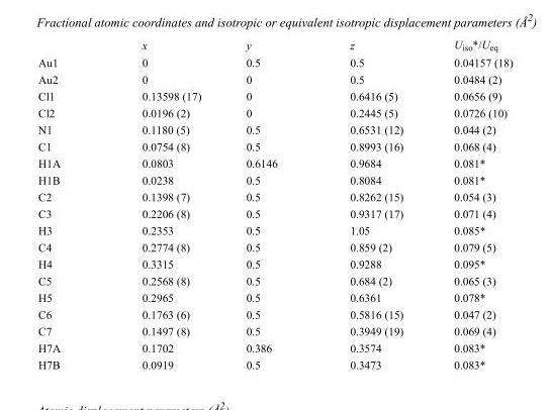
<table><thead><tr><td></td><td>x</td><td>y</td><td>z</td><td>U<sub>iso</sub>*/U<sub>eq</sub></td></tr></thead><tbody><tr><td>Au1</td><td>0</td><td>0.5</td><td>0.5</td><td>0.04157 (18)</td></tr><tr><td>Au2</td><td>0</td><td>0</td><td>0.5</td><td>0.0484 (2)</td></tr><tr><td>Cl1</td><td>0.13598 (17)</td><td>0</td><td>0.6416 (5)</td><td>0.0656 (9)</td></tr><tr><td>Cl2</td><td>0.0196 (2)</td><td>0</td><td>0.2445 (5)</td><td>0.0726 (10)</td></tr><tr><td>N1</td><td>0.1180 (5)</td><td>0.5</td><td>0.6531 (12)</td><td>0.044 (2)</td></tr><tr><td>C1</td><td>0.0754 (8)</td><td>0.5</td><td>0.8993 (16)</td><td>0.068 (4)</td></tr><tr><td>H1A</td><td>0.0803</td><td>0.6146</td><td>0.9684</td><td>0.081*</td></tr><tr><td>H1B</td><td>0.0238</td><td>0.5</td><td>0.8084</td><td>0.081*</td></tr><tr><td>C2</td><td>0.1398 (7)</td><td>0.5</td><td>0.8262 (15)</td><td>0.054 (3)</td></tr><tr><td>C3</td><td>0.2206 (8)</td><td>0.5</td><td>0.9317 (17)</td><td>0.071 (4)</td></tr><tr><td>H3</td><td>0.2353</td><td>0.5</td><td>1.05</td><td>0.085*</td></tr><tr><td>C4</td><td>0.2774 (8)</td><td>0.5</td><td>0.859 (2)</td><td>0.079 (5)</td></tr><tr><td>H4</td><td>0.3315</td><td>0.5</td><td>0.9288</td><td>0.095*</td></tr><tr><td>C5</td><td>0.2568 (8)</td><td>0.5</td><td>0.684 (2)</td><td>0.065 (3)</td></tr><tr><td>H5</td><td>0.2965</td><td>0.5</td><td>0.6361</td><td>0.078*</td></tr><tr><td>C6</td><td>0.1763 (6)</td><td>0.5</td><td>0.5816 (15)</td><td>0.047 (2)</td></tr><tr><td>C7</td><td>0.1497 (8)</td><td>0.5</td><td>0.3949 (19)</td><td>0.069 (4)</td></tr><tr><td>H7A</td><td>0.1702</td><td>0.386</td><td>0.3574</td><td>0.083*</td></tr><tr><td>H7B</td><td>0.0919</td><td>0.5</td><td>0.3473</td><td>0.083*</td></tr></tbody></table>